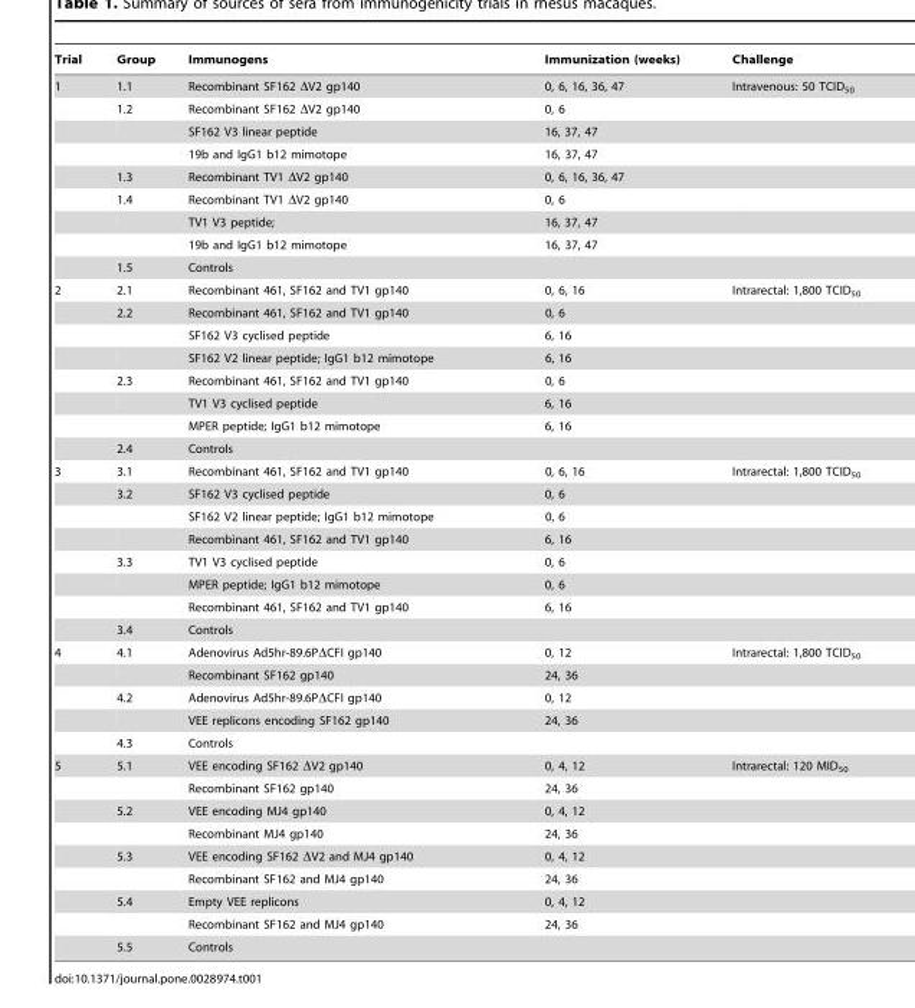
<table><thead><tr><td>Trial</td><td>Group</td><td>Immunogens</td><td>Immunization (weeks)</td><td>Challenge</td></tr></thead><tbody><tr><td rowspan="9">1</td><td>1.1</td><td>Recombinant SF162 ΔV2 gp140</td><td>0, 6, 16, 36, 47</td><td>Intravenous: 50 TCID<sub>50</sub></td></tr><tr><td>1.2</td><td>Recombinant SF162 ΔV2 gp140</td><td>0, 6</td><td></td></tr><tr><td></td><td>SF162 V3 linear peptide</td><td>16, 37, 47</td><td></td></tr><tr><td></td><td>19b and IgG1 b12 mimotope</td><td>16, 37, 47</td><td></td></tr><tr><td>1.3</td><td>Recombinant TV1 ΔV2 gp140</td><td>0, 6, 16, 36, 47</td><td></td></tr><tr><td>1.4</td><td>Recombinant TV1 ΔV2 gp140</td><td>0, 6</td><td></td></tr><tr><td></td><td>TV1 V3 peptide;</td><td>16, 37, 47</td><td></td></tr><tr><td></td><td>19b and IgG1 b12 mimotope</td><td>16, 37, 47</td><td></td></tr><tr><td>1.5</td><td>Controls</td><td></td><td></td></tr><tr><td rowspan="8">2</td><td>2.1</td><td>Recombinant 461, SF162 and TV1 gp140</td><td>0, 6, 16</td><td>Intrarectal: 1,800 TCID<sub>50</sub></td></tr><tr><td>2.2</td><td>Recombinant 461, SF162 and TV1 gp140</td><td>0, 6</td><td></td></tr><tr><td></td><td>SF162 V3 cyclised peptide</td><td>6, 16</td><td></td></tr><tr><td></td><td>SF162 V2 linear peptide; IgG1 b12 mimotope</td><td>6, 16</td><td></td></tr><tr><td>2.3</td><td>Recombinant 461, SF162 and TV1 gp140</td><td>0, 6</td><td></td></tr><tr><td></td><td>TV1 V3 cyclised peptide</td><td>6, 16</td><td></td></tr><tr><td></td><td>MPER peptide; IgG1 b12 mimotope</td><td>6, 16</td><td></td></tr><tr><td>2.4</td><td>Controls</td><td></td><td></td></tr><tr><td rowspan="8">3</td><td>3.1</td><td>Recombinant 461, SF162 and TV1 gp140</td><td>0, 6, 16</td><td>Intrarectal: 1,800 TCID<sub>50</sub></td></tr><tr><td>3.2</td><td>SF162 V3 cyclised peptide</td><td>0, 6</td><td></td></tr><tr><td></td><td>SF162 V2 linear peptide; IgG1 b12 mimotope</td><td>0, 6</td><td></td></tr><tr><td></td><td>Recombinant 461, SF162 and TV1 gp140</td><td>6, 16</td><td></td></tr><tr><td>3.3</td><td>TV1 V3 cyclised peptide</td><td>0, 6</td><td></td></tr><tr><td></td><td>MPER peptide; IgG1 b12 mimotope</td><td>0, 6</td><td></td></tr><tr><td></td><td>Recombinant 461, SF162 and TV1 gp140</td><td>6, 16</td><td></td></tr><tr><td>3.4</td><td>Controls</td><td></td><td></td></tr><tr><td rowspan="5">4</td><td>4.1</td><td>Adenovirus Ad5hr-89.6PΔCFI gp140</td><td>0, 12</td><td>Intrarectal: 1,800 TCID<sub>50</sub></td></tr><tr><td></td><td>Recombinant SF162 gp140</td><td>24, 36</td><td></td></tr><tr><td>4.2</td><td>Adenovirus Ad5hr-89.6PΔCFI gp140</td><td>0, 12</td><td></td></tr><tr><td></td><td>VEE replicons encoding SF162 gp140</td><td>24, 36</td><td></td></tr><tr><td>4.3</td><td>Controls</td><td></td><td></td></tr><tr><td rowspan="9">5</td><td>5.1</td><td>VEE encoding SF162 ΔV2 gp140</td><td>0, 4, 12</td><td>Intrarectal: 120 MID<sub>50</sub></td></tr><tr><td></td><td>Recombinant SF162 gp140</td><td>24, 36</td><td></td></tr><tr><td>5.2</td><td>VEE encoding MJ4 gp140</td><td>0, 4, 12</td><td></td></tr><tr><td></td><td>Recombinant MJ4 gp140</td><td>24, 36</td><td></td></tr><tr><td>5.3</td><td>VEE encoding SF162 ΔV2 and MJ4 gp140</td><td>0, 4, 12</td><td></td></tr><tr><td></td><td>Recombinant SF162 and MJ4 gp140</td><td>24, 36</td><td></td></tr><tr><td>5.4</td><td>Empty VEE replicons</td><td>0, 4, 12</td><td></td></tr><tr><td></td><td>Recombinant SF162 and MJ4 gp140</td><td>24, 36</td><td></td></tr><tr><td>5.5</td><td>Controls</td><td></td><td></td></tr></tbody></table>